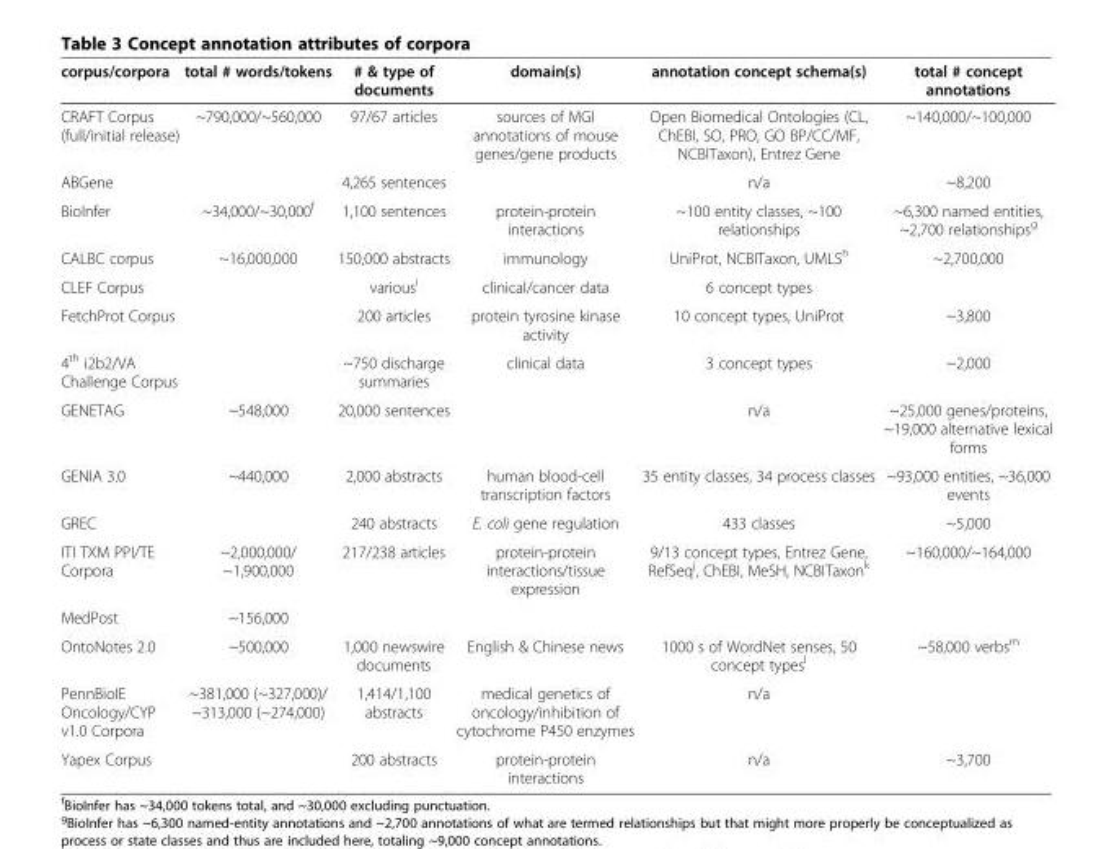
<table><thead><tr><td>corpus/corpora</td><td>total # words/tokens</td><td># &amp; type of documents</td><td>domain(s)</td><td>annotation concept schema(s)</td><td>total # concept annotations</td></tr></thead><tbody><tr><td>CRAFT Corpus (full/initial release)</td><td>~790,000/~560,000</td><td>97/67 articles</td><td>sources of MGI annotations of mouse genes/gene products</td><td>Open Biomedical Ontologies (CL, ChEBI, SO, PRO, GO BP/CC/MF, NCBITaxon), Entrez Gene</td><td>~140,000/~100,000</td></tr><tr><td>ABGene</td><td></td><td>4,265 sentences</td><td></td><td>n/a</td><td>~8,200</td></tr><tr><td>BioInfer</td><td>~34,000/~30,000<sup>f</sup></td><td>1,100 sentences</td><td>protein-protein interactions</td><td>~100 entity classes, ~100 relationships</td><td>~6,300 named entities, ~2,700 relationships<sup>g</sup></td></tr><tr><td>CALBC corpus</td><td>~16,000,000</td><td>150,000 abstracts</td><td>immunology</td><td>UniProt, NCBITaxon, UMLS<sup>h</sup></td><td>~2,700,000</td></tr><tr><td>CLEF Corpus</td><td></td><td>various<sup>i</sup></td><td>clinical/cancer data</td><td>6 concept types</td><td></td></tr><tr><td>FetchProt Corpus</td><td></td><td>200 articles</td><td>protein tyrosine kinase activity</td><td>10 concept types, UniProt</td><td>~3,800</td></tr><tr><td>4<sup>th</sup> i2b2/VA Challenge Corpus</td><td></td><td>~750 discharge summaries</td><td>clinical data</td><td>3 concept types</td><td>~2,000</td></tr><tr><td>GENETAG</td><td>~548,000</td><td>20,000 sentences</td><td></td><td>n/a</td><td>~25,000 genes/proteins, ~19,000 alternative lexical forms</td></tr><tr><td>GENIA 3.0</td><td>~440,000</td><td>2,000 abstracts</td><td>human blood-cell transcription factors</td><td>35 entity classes, 34 process classes</td><td>~93,000 entities, ~36,000 events</td></tr><tr><td>GREC</td><td></td><td>240 abstracts</td><td>E. coli gene regulation</td><td>433 classes</td><td>~5,000</td></tr><tr><td>ITI TXM PPI/TE Corpora</td><td>~2,000,000/ ~1,900,000</td><td>217/238 articles</td><td>protein-protein interactions/tissue expression</td><td>9/13 concept types, Entrez Gene, RefSeq<sup>j</sup>, ChEBI, MeSH, NCBITaxon<sup>k</sup></td><td>~160,000/~164,000</td></tr><tr><td>MedPost</td><td>~156,000</td><td></td><td></td><td></td><td></td></tr><tr><td>OntoNotes 2.0</td><td>~500,000</td><td>1,000 newswire documents</td><td>English &amp; Chinese news</td><td>1000 s of WordNet senses, 50 concept types<sup>l</sup></td><td>~58,000 verbs<sup>m</sup></td></tr><tr><td>PennBioIE Oncology/CYP v1.0 Corpora</td><td>~381,000 (~327,000)/ ~313,000 (~274,000)</td><td>1,414/1,100 abstracts</td><td>medical genetics of oncology/inhibition of cytochrome P450 enzymes</td><td>n/a</td><td></td></tr><tr><td>Yapex Corpus</td><td></td><td>200 abstracts</td><td>protein-protein interactions</td><td>n/a</td><td>~3,700</td></tr></tbody></table>